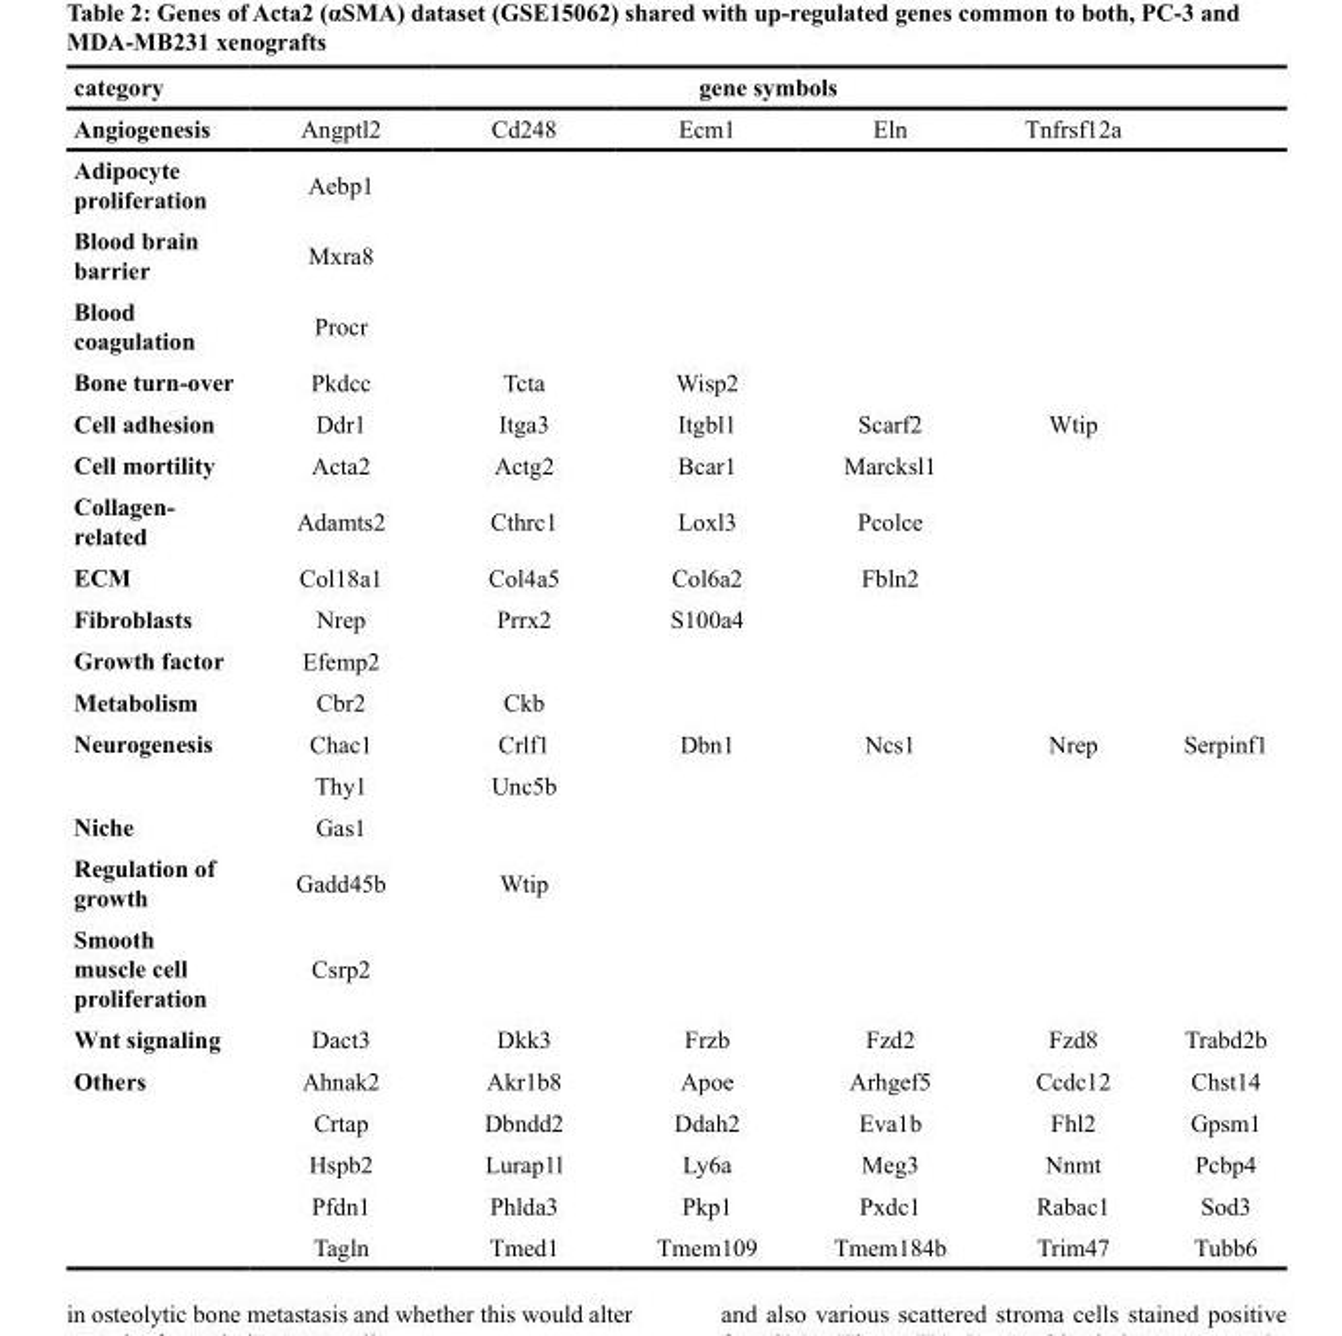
<table><thead><tr><td rowspan="2">category Angiogenesis</td><td colspan="6">gene symbols</td></tr><tr><td>Angptl2</td><td>Cd248</td><td>Ecm1</td><td>Eln</td><td>Tnfrsf12a</td><td></td></tr></thead><tbody><tr><td>Adipocyte proliferation</td><td>Aebp1</td><td></td><td></td><td></td><td></td><td></td></tr><tr><td>Blood brain barrier</td><td>Mxra8</td><td></td><td></td><td></td><td></td><td></td></tr><tr><td>Blood coagulation</td><td>Procr</td><td></td><td></td><td></td><td></td><td></td></tr><tr><td>Bone turn-over</td><td>Pkdcc</td><td>Tcta</td><td>Wisp2</td><td></td><td></td><td></td></tr><tr><td>Cell adhesion</td><td>Ddr1</td><td>Itga3</td><td>Itgbl1</td><td>Scarf2</td><td>Wtip</td><td></td></tr><tr><td>Cell mortility</td><td>Acta2</td><td>Actg2</td><td>Bcar1</td><td>Marcksl1</td><td></td><td></td></tr><tr><td>Collagen- related</td><td>Adamts2</td><td>Cthrc1</td><td>Loxl3</td><td>Pcolce</td><td></td><td></td></tr><tr><td>ECM</td><td>Col18a1</td><td>Col4a5</td><td>Col6a2</td><td>Fbln2</td><td></td><td></td></tr><tr><td>Fibroblasts</td><td>Nrep</td><td>Prrx2</td><td>S100a4</td><td></td><td></td><td></td></tr><tr><td>Growth factor</td><td>Efemp2</td><td></td><td></td><td></td><td></td><td></td></tr><tr><td>Metabolism</td><td>Cbr2</td><td>Ckb</td><td></td><td></td><td></td><td></td></tr><tr><td rowspan="2">Neurogenesis</td><td>Chac1</td><td>Crlf1</td><td>Dbn1</td><td>Ncs1</td><td>Nrep</td><td>Serpinf1</td></tr><tr><td>Thy1</td><td>Unc5b</td><td></td><td></td><td></td><td></td></tr><tr><td>Niche</td><td>Gas1</td><td></td><td></td><td></td><td></td><td></td></tr><tr><td>Regulation of growth</td><td>Gadd45b</td><td>Wtip</td><td></td><td></td><td></td><td></td></tr><tr><td>Smooth muscle cell proliferation</td><td>Csrp2</td><td></td><td></td><td></td><td></td><td></td></tr><tr><td>Wnt signaling</td><td>Dact3</td><td>Dkk3</td><td>Frzb</td><td>Fzd2</td><td>Fzd8</td><td>Trabd2b</td></tr><tr><td rowspan="5">Others</td><td>Ahnak2</td><td>Akr1b8</td><td>Apoe</td><td>Arhgef5</td><td>Ccdc12</td><td>Chst14</td></tr><tr><td>Crtap</td><td>Dbndd2</td><td>Ddah2</td><td>Eva1b</td><td>Fhl2</td><td>Gpsm1</td></tr><tr><td>Hspb2</td><td>Lurap1l</td><td>Ly6a</td><td>Meg3</td><td>Nnmt</td><td>Pcbp4</td></tr><tr><td>Pfdn1</td><td>Phlda3</td><td>Pkp1</td><td>Pxdc1</td><td>Rabac1</td><td>Sod3</td></tr><tr><td>Tagln</td><td>Tmed1</td><td>Tmem109</td><td>Tmem184b</td><td>Trim47</td><td>Tubb6</td></tr></tbody></table>